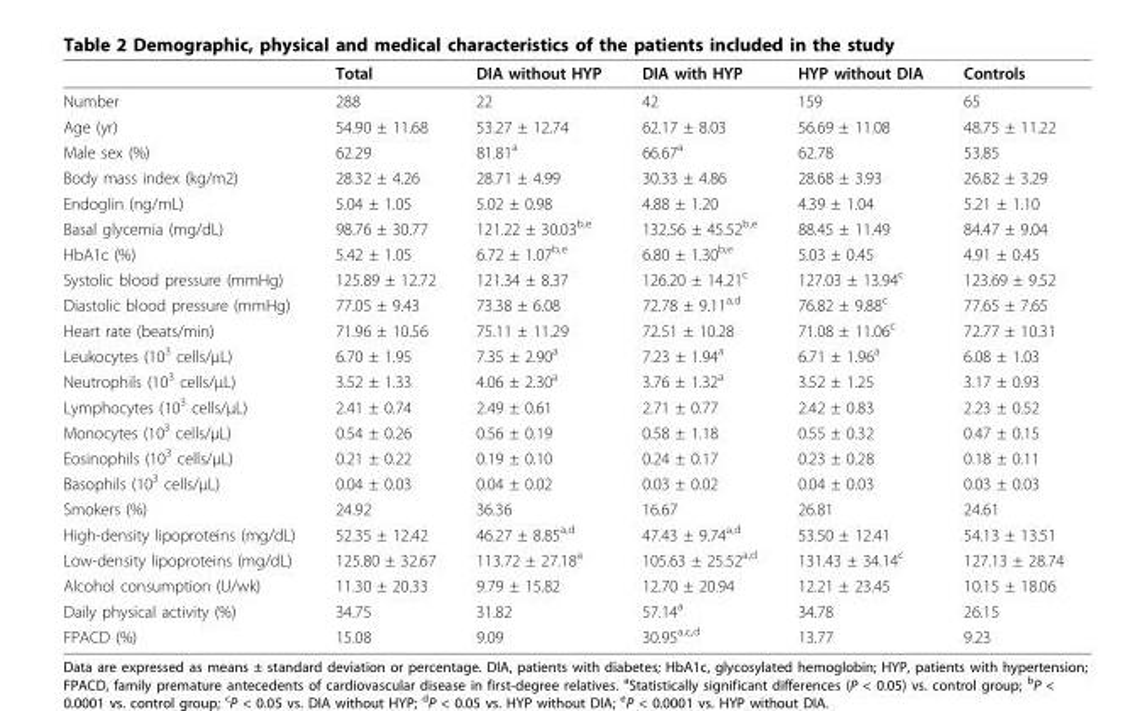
<table><thead><tr><td></td><td>Total</td><td>DIA without HYP</td><td>DIA with HYP</td><td>HYP without DIA</td><td>Controls</td></tr></thead><tbody><tr><td>Number</td><td>288</td><td>22</td><td>42</td><td>159</td><td>65</td></tr><tr><td>Age (yr)</td><td>54.90 ± 11.68</td><td>53.27 ± 12.74</td><td>62.17 ± 8.03</td><td>56.69 ± 11.08</td><td>48.75 ± 11.22</td></tr><tr><td>Male sex (%)</td><td>62.29</td><td>81.81<sup>a</sup></td><td>66.67<sup>a</sup></td><td>62.78</td><td>53.85</td></tr><tr><td>Body mass index (kg/m2)</td><td>28.32 ± 4.26</td><td>28.71 ± 4.99</td><td>30.33 ± 4.86</td><td>28.68 ± 3.93</td><td>26.82 ± 3.29</td></tr><tr><td>Endoglin (ng/mL)</td><td>5.04 ± 1.05</td><td>5.02 ± 0.98</td><td>4.88 ± 1.20</td><td>4.39 ± 1.04</td><td>5.21 ± 1.10</td></tr><tr><td>Basal glycemia (mg/dL)</td><td>98.76 ± 30.77</td><td>121.22 ± 30.03<sup>b,e</sup></td><td>132.56 ± 45.52<sup>b,e</sup></td><td>88.45 ± 11.49</td><td>84.47 ± 9.04</td></tr><tr><td>HbA1c (%)</td><td>5.42 ± 1.05</td><td>6.72 ± 1.07<sup>b,e</sup></td><td>6.80 ± 1.30<sup>b,e</sup></td><td>5.03 ± 0.45</td><td>4.91 ± 0.45</td></tr><tr><td>Systolic blood pressure (mmHg)</td><td>125.89 ± 12.72</td><td>121.34 ± 8.37</td><td>126.20 ± 14.21<sup>c</sup></td><td>127.03 ± 13.94<sup>c</sup></td><td>123.69 ± 9.52</td></tr><tr><td>Diastolic blood pressure (mmHg)</td><td>77.05 ± 9.43</td><td>73.38 ± 6.08</td><td>72.78 ± 9.11<sup>a,d</sup></td><td>76.82 ± 9.88<sup>c</sup></td><td>77.65 ± 7.65</td></tr><tr><td>Heart rate (beats/min)</td><td>71.96 ± 10.56</td><td>75.11 ± 11.29</td><td>72.51 ± 10.28</td><td>71.08 ± 11.06<sup>c</sup></td><td>72.77 ± 10.31</td></tr><tr><td>Leukocytes (10<sup>3</sup> cells/μL)</td><td>6.70 ± 1.95</td><td>7.35 ± 2.90<sup>a</sup></td><td>7.23 ± 1.94<sup>a</sup></td><td>6.71 ± 1.96<sup>a</sup></td><td>6.08 ± 1.03</td></tr><tr><td>Neutrophils (10<sup>3</sup> cells/μL)</td><td>3.52 ± 1.33</td><td>4.06 ± 2.30<sup>a</sup></td><td>3.76 ± 1.32<sup>a</sup></td><td>3.52 ± 1.25</td><td>3.17 ± 0.93</td></tr><tr><td>Lymphocytes (10<sup>3</sup> cells/μL)</td><td>2.41 ± 0.74</td><td>2.49 ± 0.61</td><td>2.71 ± 0.77</td><td>2.42 ± 0.83</td><td>2.23 ± 0.52</td></tr><tr><td>Monocytes (10<sup>3</sup> cells/μL)</td><td>0.54 ± 0.26</td><td>0.56 ± 0.19</td><td>0.58 ± 1.18</td><td>0.55 ± 0.32</td><td>0.47 ± 0.15</td></tr><tr><td>Eosinophils (10<sup>3</sup> cells/μL)</td><td>0.21 ± 0.22</td><td>0.19 ± 0.10</td><td>0.24 ± 0.17</td><td>0.23 ± 0.28</td><td>0.18 ± 0.11</td></tr><tr><td>Basophils (10<sup>3</sup> cells/μL)</td><td>0.04 ± 0.03</td><td>0.04 ± 0.02</td><td>0.03 ± 0.02</td><td>0.04 ± 0.03</td><td>0.03 ± 0.03</td></tr><tr><td>Smokers (%)</td><td>24.92</td><td>36.36</td><td>16.67</td><td>26.81</td><td>24.61</td></tr><tr><td>High-density lipoproteins (mg/dL)</td><td>52.35 ± 12.42</td><td>46.27 ± 8.85<sup>a,d</sup></td><td>47.43 ± 9.74<sup>a,d</sup></td><td>53.50 ± 12.41</td><td>54.13 ± 13.51</td></tr><tr><td>Low-density lipoproteins (mg/dL)</td><td>125.80 ± 32.67</td><td>113.72 ± 27.18<sup>a</sup></td><td>105.63 ± 25.52<sup>a,d</sup></td><td>131.43 ± 34.14<sup>c</sup></td><td>127.13 ± 28.74</td></tr><tr><td>Alcohol consumption (U/wk)</td><td>11.30 ± 20.33</td><td>9.79 ± 15.82</td><td>12.70 ± 20.94</td><td>12.21 ± 23.45</td><td>10.15 ± 18.06</td></tr><tr><td>Daily physical activity (%)</td><td>34.75</td><td>31.82</td><td>57.14<sup>a</sup></td><td>34.78</td><td>26.15</td></tr><tr><td>FPACD (%)</td><td>15.08</td><td>9.09</td><td>30.95<sup>a,c,d</sup></td><td>13.77</td><td>9.23</td></tr></tbody></table>